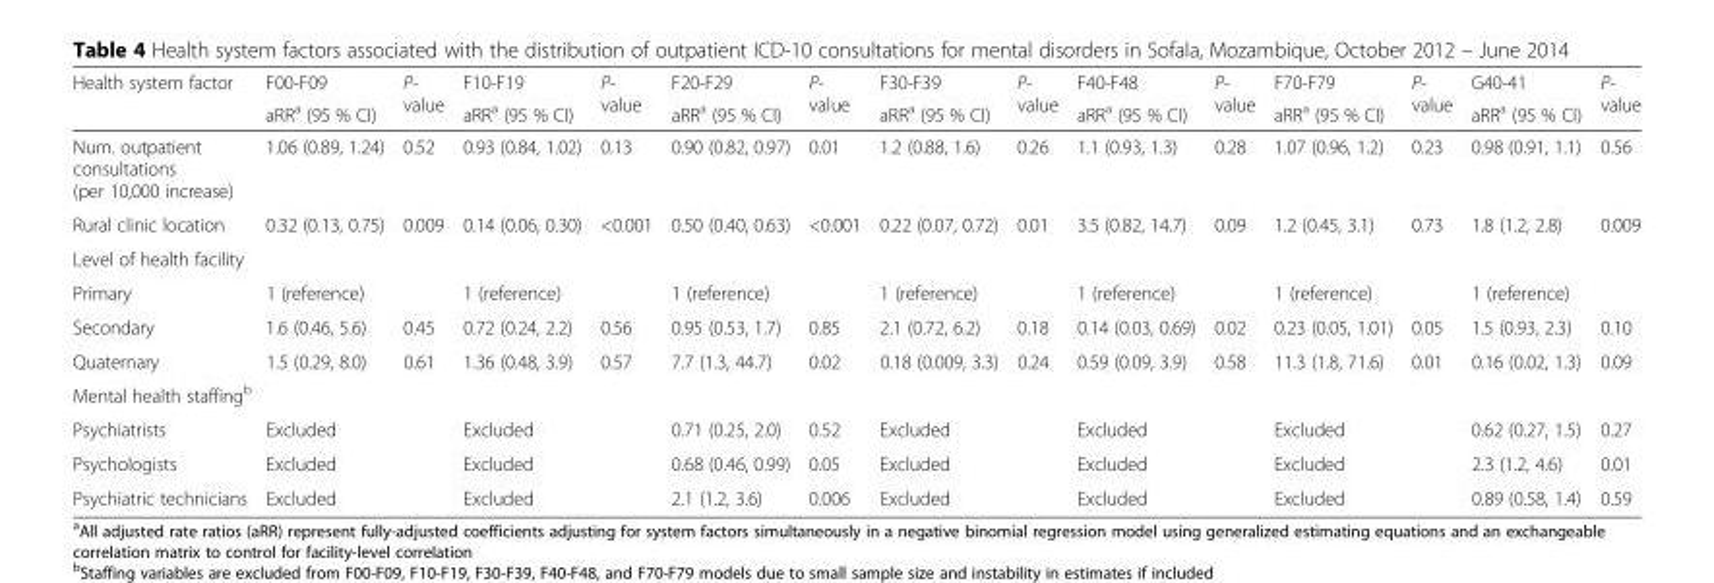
<table><thead><tr><td rowspan="2">Health system factor</td><td rowspan="2">F00-F09 aRR<sup>a</sup> (95 % CI)</td><td rowspan="2">P- value</td><td rowspan="2">F10-F19 aRR<sup>a</sup> (95 % CI)</td><td rowspan="2">P- value</td><td rowspan="2">F20-F29 aRR<sup>a</sup> (95 % CI)</td><td rowspan="2">P- value</td><td rowspan="2">F30-F39 aRR<sup>a</sup> (95 % CI)</td><td rowspan="2">P- value</td><td rowspan="2">F40-F48 aRR<sup>a</sup> (95 % CI)</td><td rowspan="2">P- value</td><td rowspan="2">F70-F79 aRR<sup>a</sup> (95 % CI)</td><td rowspan="2">P- value</td><td rowspan="2">G40-41 aRR<sup>a</sup> (95 % CI)</td><td rowspan="2">P- value</td></tr><tr></tr></thead><tbody><tr><td>Num. outpatient consultations (per 10,000 increase)</td><td>1.06 (0.89, 1.24)</td><td>0.52</td><td>0.93 (0.84, 1.02)</td><td>0.13</td><td>0.90 (0.82, 0.97)</td><td>0.01</td><td>1.2 (0.88, 1.6)</td><td>0.26</td><td>1.1 (0.93, 1.3)</td><td>0.28</td><td>1.07 (0.96, 1.2)</td><td>0.23</td><td>0.98 (0.91, 1.1)</td><td>0.56</td></tr><tr><td>Rural clinic location</td><td>0.32 (0.13, 0.75)</td><td>0.009</td><td>0.14 (0.06, 0.30)</td><td>&lt;0.001</td><td>0.50 (0.40, 0.63)</td><td>&lt;0.001</td><td>0.22 (0.07, 0.72)</td><td>0.01</td><td>3.5 (0.82, 14.7)</td><td>0.09</td><td>1.2 (0.45, 3.1)</td><td>0.73</td><td>1.8 (1.2, 2.8)</td><td>0.009</td></tr><tr><td colspan="15">Level of health facility</td></tr><tr><td>Primary</td><td>1 (reference)</td><td></td><td>1 (reference)</td><td></td><td>1 (reference)</td><td></td><td>1 (reference)</td><td></td><td>1 (reference)</td><td></td><td>1 (reference)</td><td></td><td>1 (reference)</td><td></td></tr><tr><td>Secondary</td><td>1.6 (0.46, 5.6)</td><td>0.45</td><td>0.72 (0.24, 2.2)</td><td>0.56</td><td>0.95 (0.53, 1.7)</td><td>0.85</td><td>2.1 (0.72, 6.2)</td><td>0.18</td><td>0.14 (0.03, 0.69)</td><td>0.02</td><td>0.23 (0.05, 1.01)</td><td>0.05</td><td>1.5 (0.93, 2.3)</td><td>0.10</td></tr><tr><td>Quaternary</td><td>1.5 (0.29, 8.0)</td><td>0.61</td><td>1.36 (0.48, 3.9)</td><td>0.57</td><td>7.7 (1.3, 44.7)</td><td>0.02</td><td>0.18 (0.009, 3.3)</td><td>0.24</td><td>0.59 (0.09, 3.9)</td><td>0.58</td><td>11.3 (1.8, 71.6)</td><td>0.01</td><td>0.16 (0.02, 1.3)</td><td>0.09</td></tr><tr><td colspan="15">Mental health staffing<sup>b</sup></td></tr><tr><td>Psychiatrists</td><td>Excluded</td><td></td><td>Excluded</td><td></td><td>0.71 (0.25, 2.0)</td><td>0.52</td><td>Excluded</td><td></td><td>Excluded</td><td></td><td>Excluded</td><td></td><td>0.62 (0.27, 1.5)</td><td>0.27</td></tr><tr><td>Psychologists</td><td>Excluded</td><td></td><td>Excluded</td><td></td><td>0.68 (0.46, 0.99)</td><td>0.05</td><td>Excluded</td><td></td><td>Excluded</td><td></td><td>Excluded</td><td></td><td>2.3 (1.2, 4.6)</td><td>0.01</td></tr><tr><td>Psychiatric technicians</td><td>Excluded</td><td></td><td>Excluded</td><td></td><td>2.1 (1.2, 3.6)</td><td>0.006</td><td>Excluded</td><td></td><td>Excluded</td><td></td><td>Excluded</td><td></td><td>0.89 (0.58, 1.4)</td><td>0.59</td></tr></tbody></table>